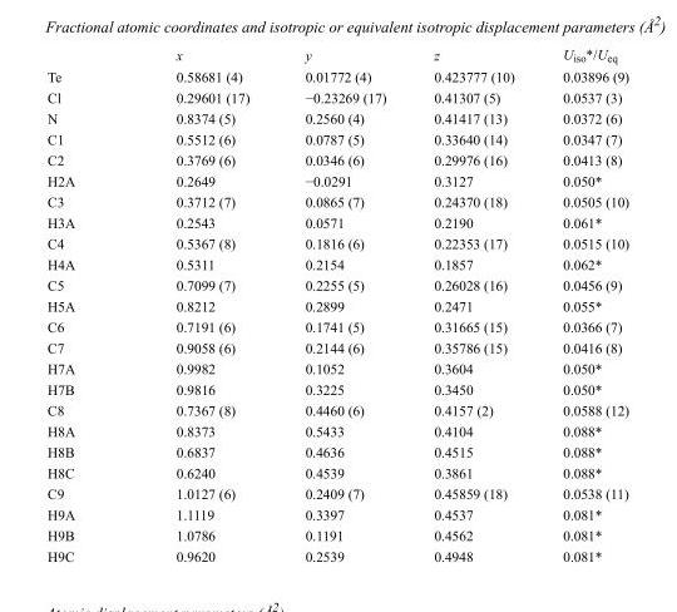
<table><thead><tr><td></td><td>x</td><td>y</td><td>z</td><td>U<sub>iso</sub>*/U<sub>eq</sub></td></tr></thead><tbody><tr><td>Te</td><td>0.58681 (4)</td><td>0.01772 (4)</td><td>0.423777 (10)</td><td>0.03896 (9)</td></tr><tr><td>Cl</td><td>0.29601 (17)</td><td>−0.23269 (17)</td><td>0.41307 (5)</td><td>0.0537 (3)</td></tr><tr><td>N</td><td>0.8374 (5)</td><td>0.2560 (4)</td><td>0.41417 (13)</td><td>0.0372 (6)</td></tr><tr><td>C1</td><td>0.5512 (6)</td><td>0.0787 (5)</td><td>0.33640 (14)</td><td>0.0347 (7)</td></tr><tr><td>C2</td><td>0.3769 (6)</td><td>0.0346 (6)</td><td>0.29976 (16)</td><td>0.0413 (8)</td></tr><tr><td>H2A</td><td>0.2649</td><td>−0.0291</td><td>0.3127</td><td>0.050*</td></tr><tr><td>C3</td><td>0.3712 (7)</td><td>0.0865 (7)</td><td>0.24370 (18)</td><td>0.0505 (10)</td></tr><tr><td>H3A</td><td>0.2543</td><td>0.0571</td><td>0.2190</td><td>0.061*</td></tr><tr><td>C4</td><td>0.5367 (8)</td><td>0.1816 (6)</td><td>0.22353 (17)</td><td>0.0515 (10)</td></tr><tr><td>H4A</td><td>0.5311</td><td>0.2154</td><td>0.1857</td><td>0.062*</td></tr><tr><td>C5</td><td>0.7099 (7)</td><td>0.2255 (5)</td><td>0.26028 (16)</td><td>0.0456 (9)</td></tr><tr><td>H5A</td><td>0.8212</td><td>0.2899</td><td>0.2471</td><td>0.055*</td></tr><tr><td>C6</td><td>0.7191 (6)</td><td>0.1741 (5)</td><td>0.31665 (15)</td><td>0.0366 (7)</td></tr><tr><td>C7</td><td>0.9058 (6)</td><td>0.2144 (6)</td><td>0.35786 (15)</td><td>0.0416 (8)</td></tr><tr><td>H7A</td><td>0.9982</td><td>0.1052</td><td>0.3604</td><td>0.050*</td></tr><tr><td>H7B</td><td>0.9816</td><td>0.3225</td><td>0.3450</td><td>0.050*</td></tr><tr><td>C8</td><td>0.7367 (8)</td><td>0.4460 (6)</td><td>0.4157 (2)</td><td>0.0588 (12)</td></tr><tr><td>H8A</td><td>0.8373</td><td>0.5433</td><td>0.4104</td><td>0.088*</td></tr><tr><td>H8B</td><td>0.6837</td><td>0.4636</td><td>0.4515</td><td>0.088*</td></tr><tr><td>H8C</td><td>0.6240</td><td>0.4539</td><td>0.3861</td><td>0.088*</td></tr><tr><td>C9</td><td>1.0127 (6)</td><td>0.2409 (7)</td><td>0.45859 (18)</td><td>0.0538 (11)</td></tr><tr><td>H9A</td><td>1.1119</td><td>0.3397</td><td>0.4537</td><td>0.081*</td></tr><tr><td>H9B</td><td>1.0786</td><td>0.1191</td><td>0.4562</td><td>0.081*</td></tr><tr><td>H9C</td><td>0.9620</td><td>0.2539</td><td>0.4948</td><td>0.081*</td></tr></tbody></table>